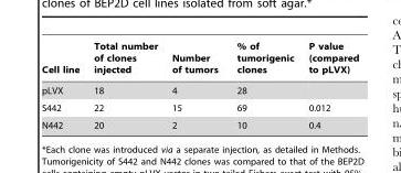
<table><thead><tr><td>Cell line</td><td>Total number of clones injected</td><td>Number of tumors</td><td>% of tumorigenic clones</td><td>P value (compared to pLVX)</td></tr></thead><tbody><tr><td>pLVX</td><td>18</td><td>4</td><td>28</td><td></td></tr><tr><td>S442</td><td>22</td><td>15</td><td>69</td><td>0.012</td></tr><tr><td>N442</td><td>20</td><td>2</td><td>10</td><td>0.4</td></tr></tbody></table>